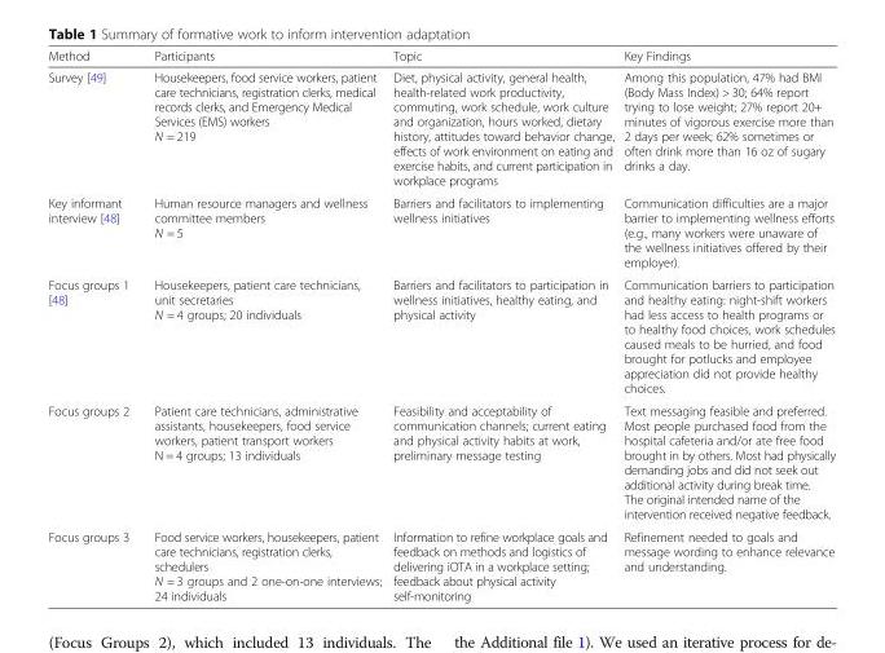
<table><thead><tr><td>Method</td><td>Participants</td><td>Topic</td><td>Key Findings</td></tr></thead><tbody><tr><td>Survey [49]</td><td>Housekeepers, food service workers, patient care technicians, registration clerks, medical records clerks, and Emergency Medical Services (EMS) workers N = 219</td><td>Diet, physical activity, general health, health-related work productivity, commuting, work schedule, work culture and organization, hours worked, dietary history, attitudes toward behavior change, effects of work environment on eating and exercise habits, and current participation in workplace programs</td><td>Among this population, 47% had BMI (Body Mass Index) &gt; 30; 64% report trying to lose weight; 27% report 20+ minutes of vigorous exercise more than 2 days per week; 62% sometimes or often drink more than 16 oz of sugary drinks a day.</td></tr><tr><td>Key informant interview [48]</td><td>Human resource managers and wellness committee members N = 5</td><td>Barriers and facilitators to implementing wellness initiatives</td><td>Communication difficulties are a major barrier to implementing wellness efforts (e.g., many workers were unaware of the wellness initiatives offered by their employer).</td></tr><tr><td>Focus groups 1 [48]</td><td>Housekeepers, patient care technicians, unit secretaries N = 4 groups; 20 individuals</td><td>Barriers and facilitators to participation in wellness initiatives, healthy eating, and physical activity</td><td>Communication barriers to participation and healthy eating: night-shift workers had less access to health programs or to healthy food choices, work schedules caused meals to be hurried, and food brought for potlucks and employee appreciation did not provide healthy choices.</td></tr><tr><td>Focus groups 2</td><td>Patient care technicians, administrative assistants, housekeepers, food service workers, patient transport workers N = 4 groups; 13 individuals</td><td>Feasibility and acceptability of communication channels; current eating and physical activity habits at work, preliminary message testing</td><td>Text messaging feasible and preferred. Most people purchased food from the hospital cafeteria and/or ate free food brought in by others. Most had physically demanding jobs and did not seek out additional activity during break time. The original intended name of the intervention received negative feedback.</td></tr><tr><td>Focus groups 3</td><td>Food service workers, housekeepers, patient care technicians, registration clerks, schedulers N = 3 groups and 2 one-on-one interviews; 24 individuals</td><td>Information to refine workplace goals and feedback on methods and logistics of delivering iOTA in a workplace setting; feedback about physical activity self-monitoring</td><td>Refinement needed to goals and message wording to enhance relevance and understanding.</td></tr></tbody></table>